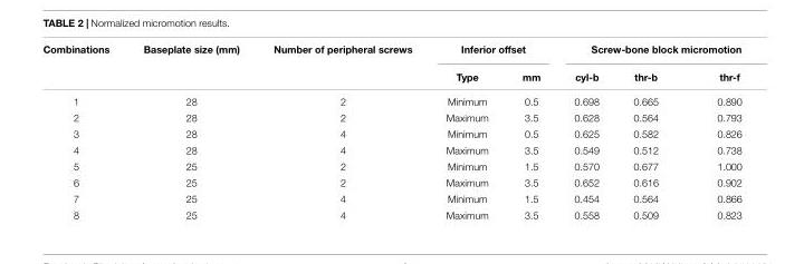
<table><thead><tr><td rowspan="2">Combinations</td><td rowspan="2">Baseplate size (mm)</td><td rowspan="2">Number of peripheral screws</td><td colspan="2">Inferior offset</td><td colspan="3">Screw-bone block micromotion</td></tr><tr><td>Type</td><td>mm</td><td>cyl-b</td><td>thr-b</td><td>thr-f</td></tr></thead><tbody><tr><td>1</td><td>28</td><td>2</td><td>Minimum</td><td>0.5</td><td>0.698</td><td>0.665</td><td>0.890</td></tr><tr><td>2</td><td>28</td><td>2</td><td>Maximum</td><td>3.5</td><td>0.628</td><td>0.564</td><td>0.793</td></tr><tr><td>3</td><td>28</td><td>4</td><td>Minimum</td><td>0.5</td><td>0.625</td><td>0.582</td><td>0.826</td></tr><tr><td>4</td><td>28</td><td>4</td><td>Maximum</td><td>3.5</td><td>0.549</td><td>0.512</td><td>0.738</td></tr><tr><td>5</td><td>25</td><td>2</td><td>Minimum</td><td>1.5</td><td>0.570</td><td>0.677</td><td>1.000</td></tr><tr><td>6</td><td>25</td><td>2</td><td>Maximum</td><td>3.5</td><td>0.652</td><td>0.616</td><td>0.902</td></tr><tr><td>7</td><td>25</td><td>4</td><td>Minimum</td><td>1.5</td><td>0.454</td><td>0.564</td><td>0.866</td></tr><tr><td>8</td><td>25</td><td>4</td><td>Maximum</td><td>3.5</td><td>0.558</td><td>0.509</td><td>0.823</td></tr></tbody></table>